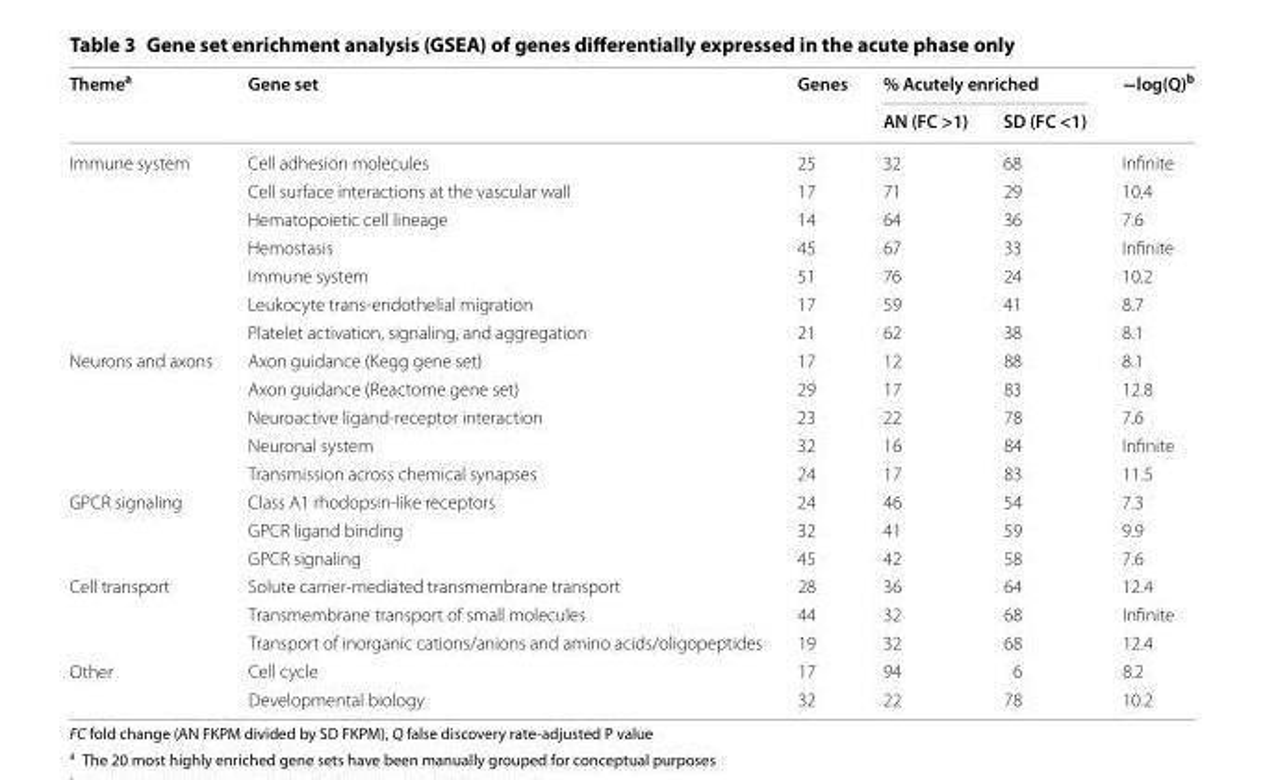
<table><thead><tr><td rowspan="2">Theme<sup>a</sup></td><td rowspan="2">Gene set</td><td rowspan="2">Genes</td><td colspan="2">% Acutely enriched</td><td rowspan="2">−log(Q)<sup>b</sup></td></tr><tr><td>AN (FC &gt;1)</td><td>SD (FC &lt;1)</td></tr></thead><tbody><tr><td rowspan="7">Immune system</td><td>Cell adhesion molecules</td><td>25</td><td>32</td><td>68</td><td>Infinite</td></tr><tr><td>Cell surface interactions at the vascular wall</td><td>17</td><td>71</td><td>29</td><td>10.4</td></tr><tr><td>Hematopoietic cell lineage</td><td>14</td><td>64</td><td>36</td><td>7.6</td></tr><tr><td>Hemostasis</td><td>45</td><td>67</td><td>33</td><td>Infinite</td></tr><tr><td>Immune system</td><td>51</td><td>76</td><td>24</td><td>10.2</td></tr><tr><td>Leukocyte trans-endothelial migration</td><td>17</td><td>59</td><td>41</td><td>8.7</td></tr><tr><td>Platelet activation, signaling, and aggregation</td><td>21</td><td>62</td><td>38</td><td>8.1</td></tr><tr><td rowspan="5">Neurons and axons</td><td>Axon guidance (Kegg gene set)</td><td>17</td><td>12</td><td>88</td><td>8.1</td></tr><tr><td>Axon guidance (Reactome gene set)</td><td>29</td><td>17</td><td>83</td><td>12.8</td></tr><tr><td>Neuroactive ligand-receptor interaction</td><td>23</td><td>22</td><td>78</td><td>7.6</td></tr><tr><td>Neuronal system</td><td>32</td><td>16</td><td>84</td><td>Infinite</td></tr><tr><td>Transmission across chemical synapses</td><td>24</td><td>17</td><td>83</td><td>11.5</td></tr><tr><td rowspan="3">GPCR signaling</td><td>Class A1 rhodopsin-like receptors</td><td>24</td><td>46</td><td>54</td><td>7.3</td></tr><tr><td>GPCR ligand binding</td><td>32</td><td>41</td><td>59</td><td>9.9</td></tr><tr><td>GPCR signaling</td><td>45</td><td>42</td><td>58</td><td>7.6</td></tr><tr><td rowspan="3">Cell transport</td><td>Solute carrier-mediated transmembrane transport</td><td>28</td><td>36</td><td>64</td><td>12.4</td></tr><tr><td>Transmembrane transport of small molecules</td><td>44</td><td>32</td><td>68</td><td>Infinite</td></tr><tr><td>Transport of inorganic cations/anions and amino acids/oligopeptides</td><td>19</td><td>32</td><td>68</td><td>12.4</td></tr><tr><td rowspan="2">Other</td><td>Cell cycle</td><td>17</td><td>94</td><td>6</td><td>8.2</td></tr><tr><td>Developmental biology</td><td>32</td><td>22</td><td>78</td><td>10.2</td></tr></tbody></table>